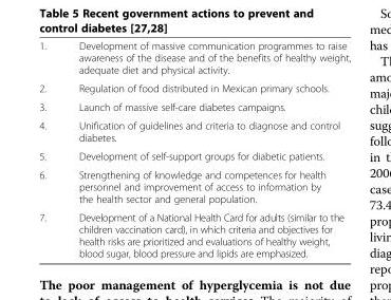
<table><tbody><tr><td>1.</td><td>Development of massive communication programmes to raise awareness of the disease and of the benefits of healthy weight, adequate diet and physical activity.</td></tr><tr><td>2.</td><td>Regulation of food distributed in Mexican primary schools.</td></tr><tr><td>3.</td><td>Launch of massive self-care diabetes campaigns.</td></tr><tr><td>4.</td><td>Unification of guidelines and criteria to diagnose and control diabetes.</td></tr><tr><td>5.</td><td>Development of self-support groups for diabetic patients.</td></tr><tr><td>6.</td><td>Strengthening of knowledge and competences for health personnel and improvement of access to information by the health sector and general population.</td></tr><tr><td>7.</td><td>Development of a National Health Card for adults (similar to the children vaccination card), in which criteria and objectives for health risks are prioritized and evaluations of healthy weight, blood sugar, blood pressure and lipids are emphasized.</td></tr></tbody></table>